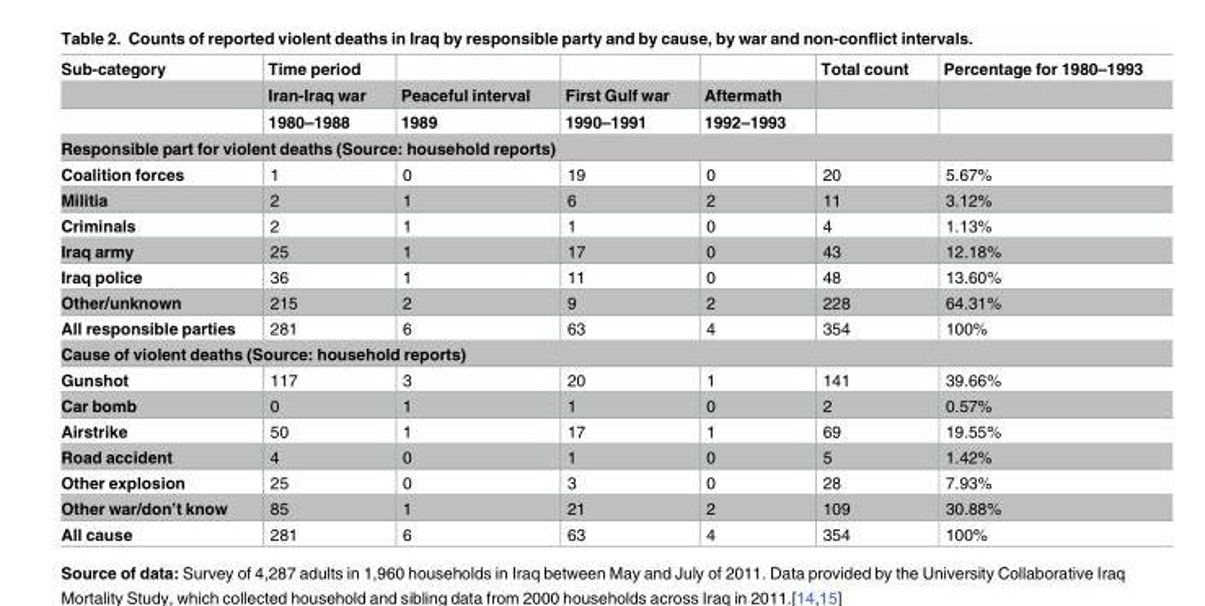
<table><thead><tr><td rowspan="3">Sub-category</td><td rowspan="3">Time period Iran-Iraq war 1980–1988</td><td rowspan="3">Peaceful interval 1989</td><td rowspan="3">First Gulf war 1990–1991</td><td rowspan="3">Aftermath 1992–1993</td><td rowspan="3">Total count</td><td rowspan="3">Percentage for 1980–1993</td></tr><tr></tr><tr></tr></thead><tbody><tr><td colspan="7">Responsible part for violent deaths (Source: household reports)</td></tr><tr><td>Coalition forces</td><td>1</td><td>0</td><td>19</td><td>0</td><td>20</td><td>5.67%</td></tr><tr><td>Militia</td><td>2</td><td>1</td><td>6</td><td>2</td><td>11</td><td>3.12%</td></tr><tr><td>Criminals</td><td>2</td><td>1</td><td>1</td><td>0</td><td>4</td><td>1.13%</td></tr><tr><td>Iraq army</td><td>25</td><td>1</td><td>17</td><td>0</td><td>43</td><td>12.18%</td></tr><tr><td>Iraq police</td><td>36</td><td>1</td><td>11</td><td>0</td><td>48</td><td>13.60%</td></tr><tr><td>Other/unknown</td><td>215</td><td>2</td><td>9</td><td>2</td><td>228</td><td>64.31%</td></tr><tr><td>All responsible parties</td><td>281</td><td>6</td><td>63</td><td>4</td><td>354</td><td>100%</td></tr><tr><td colspan="7">Cause of violent deaths (Source: household reports)</td></tr><tr><td>Gunshot</td><td>117</td><td>3</td><td>20</td><td>1</td><td>141</td><td>39.66%</td></tr><tr><td>Car bomb</td><td>0</td><td>1</td><td>1</td><td>0</td><td>2</td><td>0.57%</td></tr><tr><td>Airstrike</td><td>50</td><td>1</td><td>17</td><td>1</td><td>69</td><td>19.55%</td></tr><tr><td>Road accident</td><td>4</td><td>0</td><td>1</td><td>0</td><td>5</td><td>1.42%</td></tr><tr><td>Other explosion</td><td>25</td><td>0</td><td>3</td><td>0</td><td>28</td><td>7.93%</td></tr><tr><td>Other war/don’t know</td><td>85</td><td>1</td><td>21</td><td>2</td><td>109</td><td>30.88%</td></tr><tr><td>All cause</td><td>281</td><td>6</td><td>63</td><td>4</td><td>354</td><td>100%</td></tr></tbody></table>